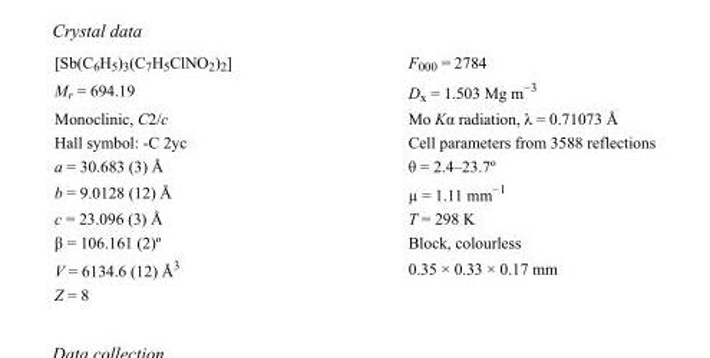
<table><tbody><tr><td>[Sb(C<sub>6</sub>H<sub>5</sub>)<sub>3</sub>(C<sub>7</sub>H<sub>5</sub>ClNO<sub>2</sub>)<sub>2</sub>]</td><td>F000 = 2784</td></tr><tr><td>M<sub>r</sub> = 694.19</td><td>D<sub>x</sub> = 1.503 Mg m<sup>−3</sup></td></tr><tr><td>Monoclinic, C2/c</td><td>Mo Kα radiation, λ = 0.71073 Å</td></tr><tr><td>Hall symbol: -C 2yc</td><td>Cell parameters from 3588 reflections</td></tr><tr><td>a = 30.683 (3) Å</td><td>θ = 2.4–23.7º</td></tr><tr><td>b = 9.0128 (12) Å</td><td>µ = 1.11 mm<sup>−1</sup></td></tr><tr><td>c = 23.096 (3) Å</td><td>T = 298 K</td></tr><tr><td>β = 106.161 (2)º</td><td>Block, colourless</td></tr><tr><td>V = 6134.6 (12) Å<sup>3</sup></td><td>0.35 × 0.33 × 0.17 mm</td></tr><tr><td>Z = 8</td><td></td></tr></tbody></table>